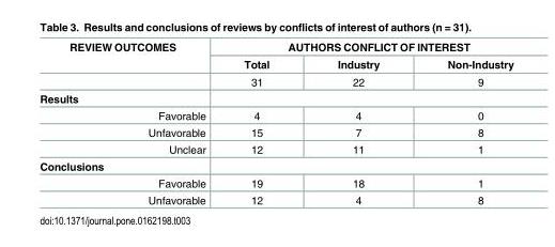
<table><thead><tr><td rowspan="2">REVIEW OUTCOMES</td><td colspan="3">AUTHORS CONFLICT OF INTEREST</td></tr><tr><td>Total</td><td>Industry</td><td>Non-Industry</td></tr></thead><tbody><tr><td></td><td>31</td><td>22</td><td>9</td></tr><tr><td colspan="4">Results</td></tr><tr><td>Favorable</td><td>4</td><td>4</td><td>0</td></tr><tr><td>Unfavorable</td><td>15</td><td>7</td><td>8</td></tr><tr><td>Unclear</td><td>12</td><td>11</td><td>1</td></tr><tr><td colspan="4">Conclusions</td></tr><tr><td>Favorable</td><td>19</td><td>18</td><td>1</td></tr><tr><td>Unfavorable</td><td>12</td><td>4</td><td>8</td></tr></tbody></table>